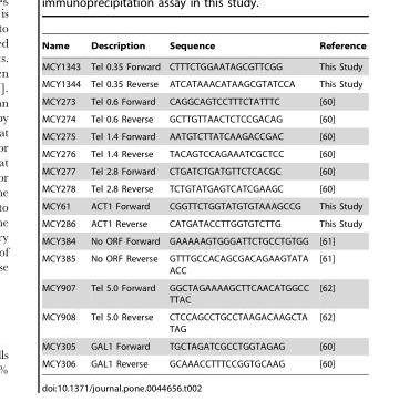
<table><thead><tr><td>Name</td><td>Description</td><td>Sequence</td><td>Reference</td></tr></thead><tbody><tr><td>MCY1343</td><td>Tel 0.35 Forward</td><td>CTTTCTGGAATAGCGTTCGG</td><td>This Study</td></tr><tr><td>MCY1344</td><td>Tel 0.35 Reverse</td><td>ATCATAAACATAAGCGTATCCA</td><td>This Study</td></tr><tr><td>MCY273</td><td>Tel 0.6 Forward</td><td>CAGGCAGTCCTTTCTATTTC</td><td>[60]</td></tr><tr><td>MCY274</td><td>Tel 0.6 Reverse</td><td>GCTTGTTAACTCTCCGACAG</td><td>[60]</td></tr><tr><td>MCY275</td><td>Tel 1.4 Forward</td><td>AATGTCTTATCAAGACCGAC</td><td>[60]</td></tr><tr><td>MCY276</td><td>Tel 1.4 Reverse</td><td>TACAGTCCAGAAATCGCTCC</td><td>[60]</td></tr><tr><td>MCY277</td><td>Tel 2.8 Forward</td><td>CTGATCTGATGTTCTCACGC</td><td>[60]</td></tr><tr><td>MCY278</td><td>Tel 2.8 Reverse</td><td>TCTGTATGAGTCATCGAAGC</td><td>[60]</td></tr><tr><td>MCY61</td><td>ACT1 Forward</td><td>CGGTTCTGGTATGTGTAAAGCCG</td><td>This Study</td></tr><tr><td>MCY286</td><td>ACT1 Reverse</td><td>CATGATACCTTGGTGTCTTG</td><td>This Study</td></tr><tr><td>MCY384</td><td>No ORF Forward</td><td>GAAAAAGTGGGATTCTGCCTGTGG</td><td>[61]</td></tr><tr><td>MCY385</td><td>No ORF Reverse</td><td>GTTTGCCACAGCGACAGAAGTATA ACC</td><td>[61]</td></tr><tr><td>MCY907</td><td>Tel 5.0 Forward</td><td>GGCTAGAAAAGCTTCAACATGGCC TTAC</td><td>[62]</td></tr><tr><td>MCY908</td><td>Tel 5.0 Reverse</td><td>CTCCAGCCTGCCTAAGACAAGCTA TAG</td><td>[62]</td></tr><tr><td>MCY305</td><td>GAL1 Forward</td><td>TGCTAGATCGCCTGGTAGAG</td><td>[60]</td></tr><tr><td>MCY306</td><td>GAL1 Reverse</td><td>GCAAACCTTTCCGGTGCAAG</td><td>[60]</td></tr></tbody></table>